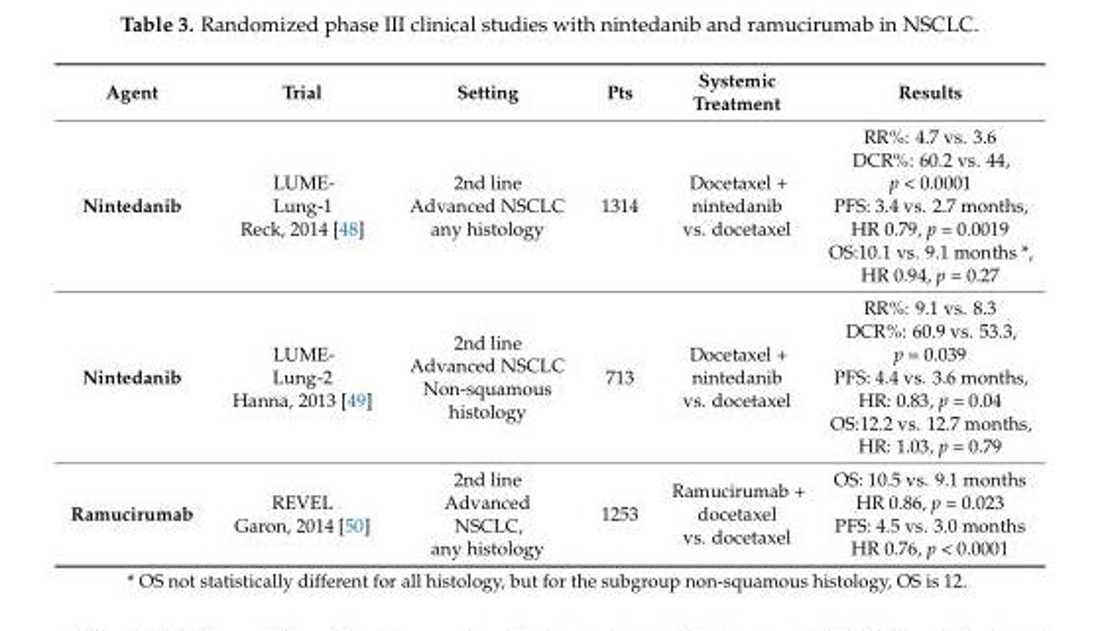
<table><thead><tr><td>Agent</td><td>Trial</td><td>Setting</td><td>Pts</td><td>Systemic Treatment</td><td>Results</td></tr></thead><tbody><tr><td>Nintedanib</td><td>LUME- Lung-1 Reck, 2014 [48]</td><td>2nd line Advanced NSCLC any histology</td><td>1314</td><td>Docetaxel + nintedanib vs. docetaxel</td><td>RR%: 4.7 vs. 3.6 DCR%: 60.2 vs. 44, p &lt; 0.0001 PFS: 3.4 vs. 2.7 months, HR 0.79, p = 0.0019 OS:10.1 vs. 9.1 months *, HR 0.94, p = 0.27</td></tr><tr><td>Nintedanib</td><td>LUME- Lung-2 Hanna, 2013 [49]</td><td>2nd line Advanced NSCLC Non-squamous histology</td><td>713</td><td>Docetaxel + nintedanib vs. docetaxel</td><td>RR%: 9.1 vs. 8.3 DCR%: 60.9 vs. 53.3, p = 0.039 PFS: 4.4 vs. 3.6 months, HR: 0.83, p = 0.04 OS:12.2 vs. 12.7 months, HR: 1.03, p = 0.79</td></tr><tr><td>Ramucirumab</td><td>REVEL Garon, 2014 [50]</td><td>2nd line Advanced NSCLC, any histology</td><td>1253</td><td>Ramucirumab + docetaxel vs. docetaxel</td><td>OS: 10.5 vs. 9.1 months HR 0.86, p = 0.023 PFS: 4.5 vs. 3.0 months HR 0.76, p &lt; 0.0001</td></tr></tbody></table>